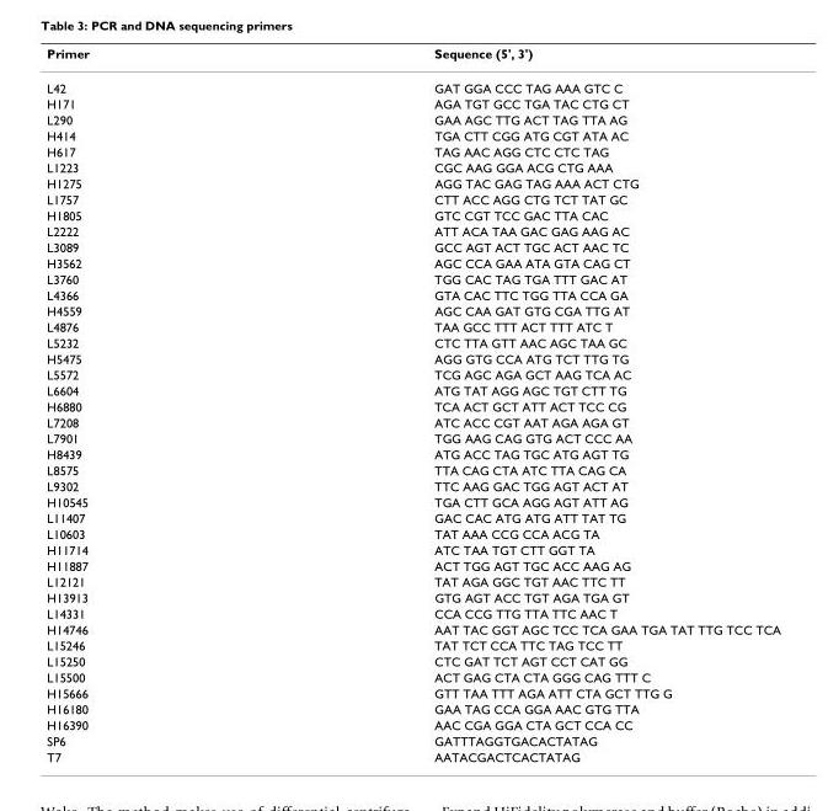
<table><thead><tr><td>Primer</td><td>Sequence (5&#x27;, 3&#x27;)</td></tr></thead><tbody><tr><td>L42</td><td>GAT GGA CCC TAG AAA GTC C</td></tr><tr><td>H171</td><td>AGA TGT GCC TGA TAC CTG CT</td></tr><tr><td>L290</td><td>GAA AGC TTG ACT TAG TTA AG</td></tr><tr><td>H414</td><td>TGA CTT CGG ATG CGT ATA AC</td></tr><tr><td>H617</td><td>TAG AAC AGG CTC CTC TAG</td></tr><tr><td>L1223</td><td>CGC AAG GGA ACG CTG AAA</td></tr><tr><td>H1275</td><td>AGG TAC GAG TAG AAA ACT CTG</td></tr><tr><td>L1757</td><td>CTT ACC AGG CTG TCT TAT GC</td></tr><tr><td>H1805</td><td>GTC CGT TCC GAC TTA CAC</td></tr><tr><td>L2222</td><td>ATT ACA TAA GAC GAG AAG AC</td></tr><tr><td>L3089</td><td>GCC AGT ACT TGC ACT AAC TC</td></tr><tr><td>H3562</td><td>AGC CCA GAA ATA GTA CAG CT</td></tr><tr><td>L3760</td><td>TGG CAC TAG TGA TTT GAC AT</td></tr><tr><td>L4366</td><td>GTA CAC TTC TGG TTA CCA GA</td></tr><tr><td>H4559</td><td>AGC CAA GAT GTG CGA TTG AT</td></tr><tr><td>L4876</td><td>TAA GCC TTT ACT TTT ATC T</td></tr><tr><td>L5232</td><td>CTC TTA GTT AAC AGC TAA GC</td></tr><tr><td>H5475</td><td>AGG GTG CCA ATG TCT TTG TG</td></tr><tr><td>L5572</td><td>TCG AGC AGA GCT AAG TCA AC</td></tr><tr><td>L6604</td><td>ATG TAT AGG AGC TGT CTT TG</td></tr><tr><td>H6880</td><td>TCA ACT GCT ATT ACT TCC CG</td></tr><tr><td>L7208</td><td>ATC ACC CGT AAT AGA AGA GT</td></tr><tr><td>L7901</td><td>TGG AAG CAG GTG ACT CCC AA</td></tr><tr><td>H8439</td><td>ATG ACC TAG TGC ATG AGT TG</td></tr><tr><td>L8575</td><td>TTA CAG CTA ATC TTA CAG CA</td></tr><tr><td>L9302</td><td>TTC AAG GAC TGG AGT ACT AT</td></tr><tr><td>H10545</td><td>TGA CTT GCA AGG AGT ATT AG</td></tr><tr><td>L11407</td><td>GAC CAC ATG ATG ATT TAT TG</td></tr><tr><td>L10603</td><td>TAT AAA CCG CCA ACG TA</td></tr><tr><td>H11714</td><td>ATC TAA TGT CTT GGT TA</td></tr><tr><td>H11887</td><td>ACT TGG AGT TGC ACC AAG AG</td></tr><tr><td>L12121</td><td>TAT AGA GGC TGT AAC TTC TT</td></tr><tr><td>H13913</td><td>GTG AGT ACC TGT AGA TGA GT</td></tr><tr><td>L14331</td><td>CCA CCG TTG TTA TTC AAC T</td></tr><tr><td>H14746</td><td>AAT TAC GGT AGC TCC TCA GAA TGA TAT TTG TCC TCA</td></tr><tr><td>L15246</td><td>TAT TCT CCA TTC TAG TCC TT</td></tr><tr><td>L15250</td><td>CTC GAT TCT AGT CCT CAT GG</td></tr><tr><td>L15500</td><td>ACT GAG CTA CTA GGG CAG TTT C</td></tr><tr><td>H15666</td><td>GTT TAA TTT AGA ATT CTA GCT TTG G</td></tr><tr><td>H16180</td><td>GAA TAG CCA GGA AAC GTG TTA</td></tr><tr><td>H16390</td><td>AAC CGA GGA CTA GCT CCA CC</td></tr><tr><td>SP6</td><td>GATTTAGGTGACACTATAG</td></tr><tr><td>T7</td><td>AATACGACTCACTATAG</td></tr></tbody></table>